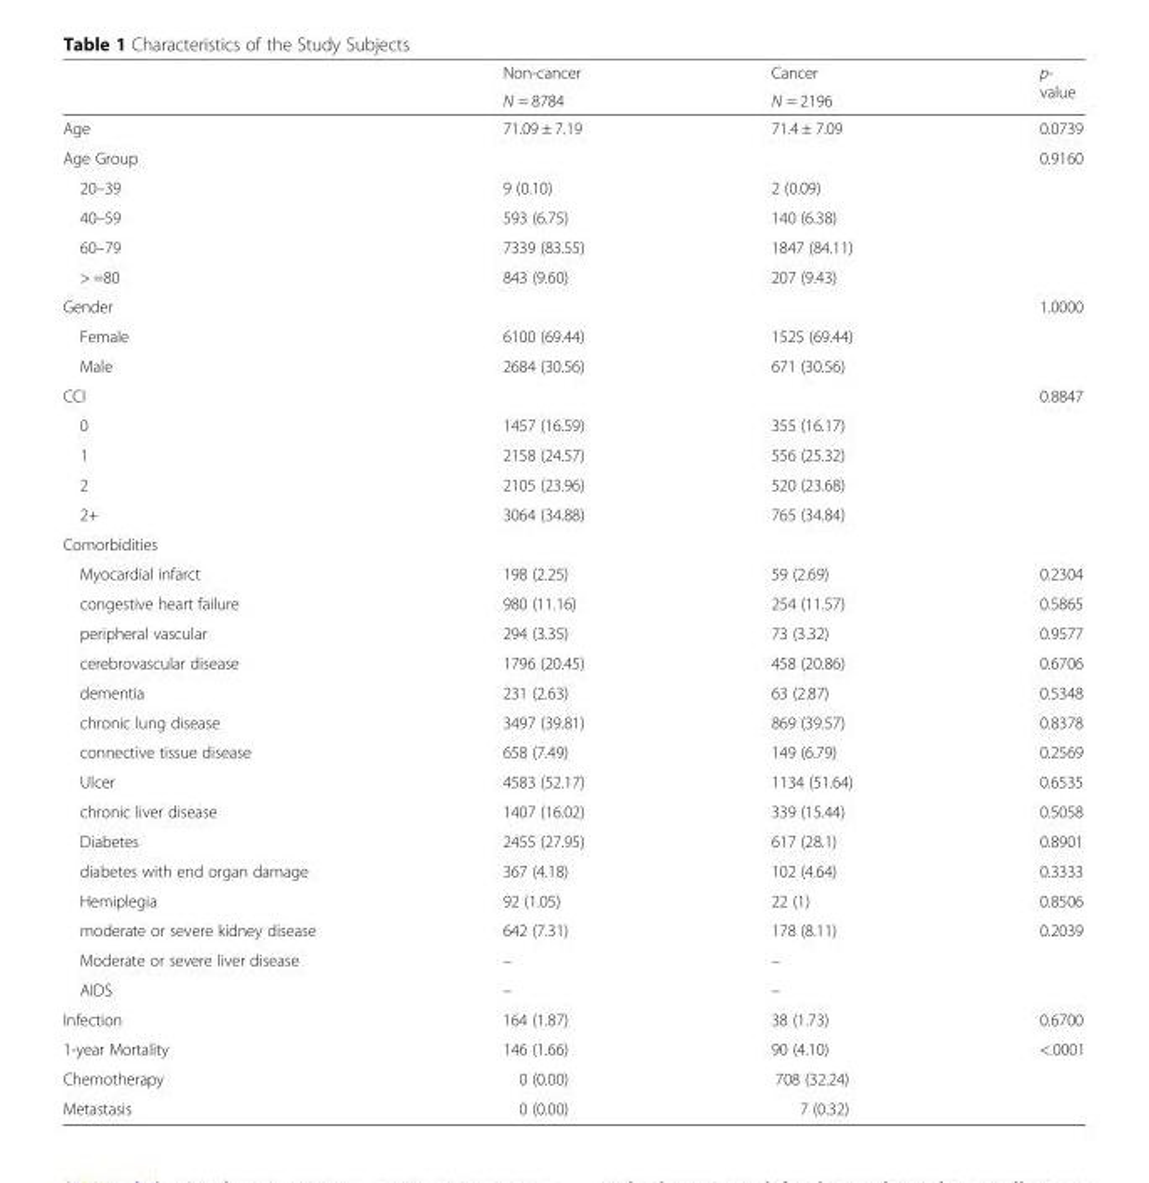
<table><thead><tr><td rowspan="2"></td><td rowspan="2">Non-cancer N = 8784</td><td rowspan="2">Cancer N = 2196</td><td rowspan="2">p- value</td></tr><tr></tr></thead><tbody><tr><td>Age</td><td>71.09 ± 7.19</td><td>71.4 ± 7.09</td><td>0.0739</td></tr><tr><td>Age Group</td><td></td><td></td><td>0.9160</td></tr><tr><td>20–39</td><td>9 (0.10)</td><td>2 (0.09)</td><td></td></tr><tr><td>40–59</td><td>593 (6.75)</td><td>140 (6.38)</td><td></td></tr><tr><td>60–79</td><td>7339 (83.55)</td><td>1847 (84.11)</td><td></td></tr><tr><td>&gt; =80</td><td>843 (9.60)</td><td>207 (9.43)</td><td></td></tr><tr><td>Gender</td><td></td><td></td><td>1.0000</td></tr><tr><td>Female</td><td>6100 (69.44)</td><td>1525 (69.44)</td><td></td></tr><tr><td>Male</td><td>2684 (30.56)</td><td>671 (30.56)</td><td></td></tr><tr><td>CCI</td><td></td><td></td><td>0.8847</td></tr><tr><td>0</td><td>1457 (16.59)</td><td>355 (16.17)</td><td></td></tr><tr><td>1</td><td>2158 (24.57)</td><td>556 (25.32)</td><td></td></tr><tr><td>2</td><td>2105 (23.96)</td><td>520 (23.68)</td><td></td></tr><tr><td>2+</td><td>3064 (34.88)</td><td>765 (34.84)</td><td></td></tr><tr><td colspan="4">Comorbidities</td></tr><tr><td>Myocardial infarct</td><td>198 (2.25)</td><td>59 (2.69)</td><td>0.2304</td></tr><tr><td>congestive heart failure</td><td>980 (11.16)</td><td>254 (11.57)</td><td>0.5865</td></tr><tr><td>peripheral vascular</td><td>294 (3.35)</td><td>73 (3.32)</td><td>0.9577</td></tr><tr><td>cerebrovascular disease</td><td>1796 (20.45)</td><td>458 (20.86)</td><td>0.6706</td></tr><tr><td>dementia</td><td>231 (2.63)</td><td>63 (2.87)</td><td>0.5348</td></tr><tr><td>chronic lung disease</td><td>3497 (39.81)</td><td>869 (39.57)</td><td>0.8378</td></tr><tr><td>connective tissue disease</td><td>658 (7.49)</td><td>149 (6.79)</td><td>0.2569</td></tr><tr><td>Ulcer</td><td>4583 (52.17)</td><td>1134 (51.64)</td><td>0.6535</td></tr><tr><td>chronic liver disease</td><td>1407 (16.02)</td><td>339 (15.44)</td><td>0.5058</td></tr><tr><td>Diabetes</td><td>2455 (27.95)</td><td>617 (28.1)</td><td>0.8901</td></tr><tr><td>diabetes with end organ damage</td><td>367 (4.18)</td><td>102 (4.64)</td><td>0.3333</td></tr><tr><td>Hemiplegia</td><td>92 (1.05)</td><td>22 (1)</td><td>0.8506</td></tr><tr><td>moderate or severe kidney disease</td><td>642 (7.31)</td><td>178 (8.11)</td><td>0.2039</td></tr><tr><td>Moderate or severe liver disease</td><td>–</td><td>–</td><td></td></tr><tr><td>AIDS</td><td>–</td><td>–</td><td></td></tr><tr><td>Infection</td><td>164 (1.87)</td><td>38 (1.73)</td><td>0.6700</td></tr><tr><td>1-year Mortality</td><td>146 (1.66)</td><td>90 (4.10)</td><td>&lt;.0001</td></tr><tr><td>Chemotherapy</td><td>0 (0.00)</td><td>708 (32.24)</td><td></td></tr><tr><td>Metastasis</td><td>0 (0.00)</td><td>7 (0.32)</td><td></td></tr></tbody></table>